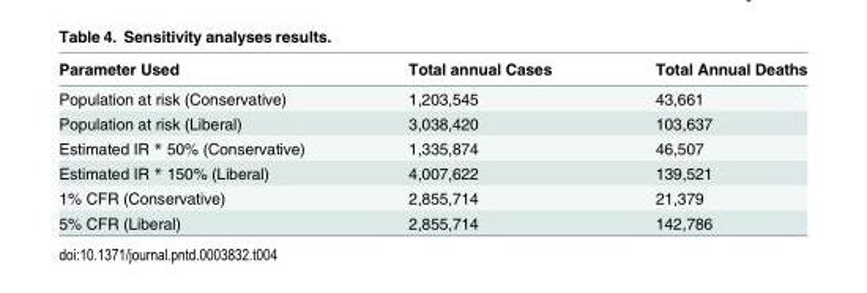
<table><thead><tr><td>Parameter Used</td><td>Total annual Cases</td><td>Total Annual Deaths</td></tr></thead><tbody><tr><td>Population at risk (Conservative)</td><td>1,203,545</td><td>43,661</td></tr><tr><td>Population at risk (Liberal)</td><td>3,038,420</td><td>103,637</td></tr><tr><td>Estimated IR * 50% (Conservative)</td><td>1,335,874</td><td>46,507</td></tr><tr><td>Estimated IR * 150% (Liberal)</td><td>4,007,622</td><td>139,521</td></tr><tr><td>1% CFR (Conservative)</td><td>2,855,714</td><td>21,379</td></tr><tr><td>5% CFR (Liberal)</td><td>2,855,714</td><td>142,786</td></tr></tbody></table>